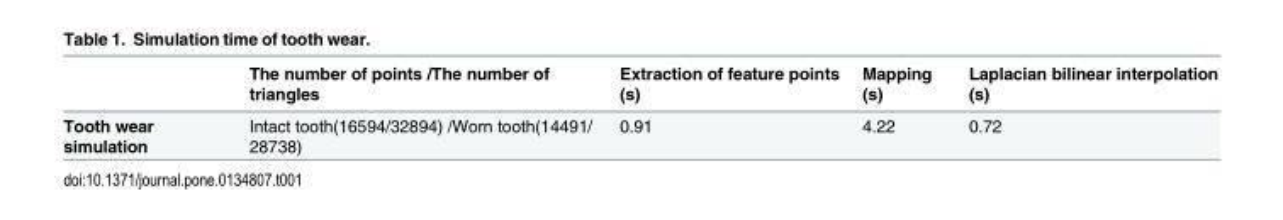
<table><thead><tr><td></td><td>The number of points /The number of triangles</td><td>Extraction of feature points (s)</td><td>Mapping (s)</td><td>Laplacian bilinear interpolation (s)</td></tr></thead><tbody><tr><td>Tooth wear simulation</td><td>Intact tooth(16594/32894) /Worn tooth(14491/ 28738)</td><td>0.91</td><td>4.22</td><td>0.72</td></tr></tbody></table>